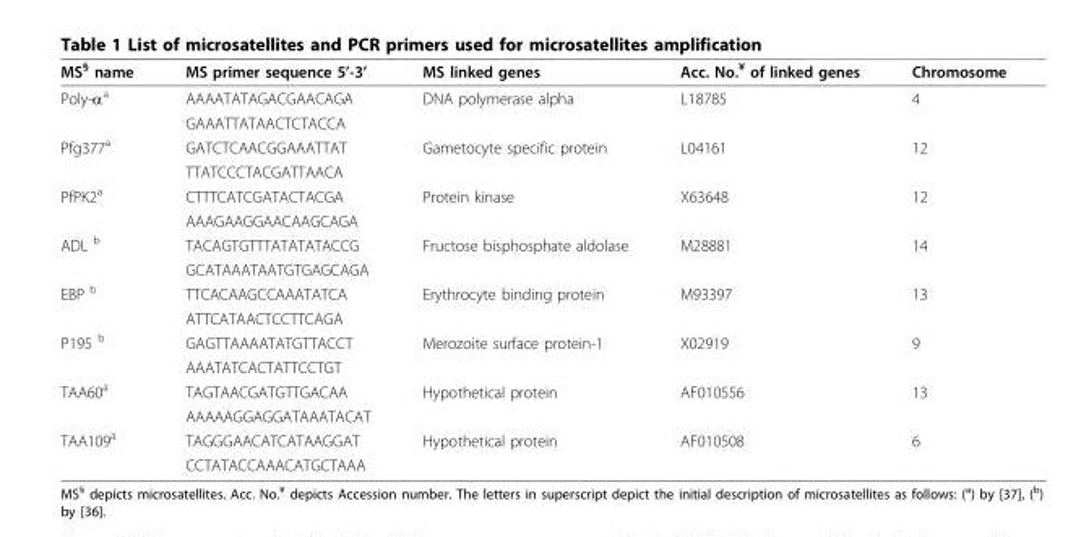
<table><thead><tr><td>MS<sup>§</sup> name</td><td>MS primer sequence 5’-3’</td><td>MS linked genes</td><td>Acc. No.<sup>¥</sup> of linked genes</td><td>Chromosome</td></tr></thead><tbody><tr><td rowspan="2">Poly-α<sup>a</sup></td><td>AAAATATAGACGAACAGA</td><td>DNA polymerase alpha</td><td>L18785</td><td>4</td></tr><tr><td>GAAATTATAACTCTACCA</td><td></td><td></td><td></td></tr><tr><td rowspan="2">Pfg377<sup>a</sup></td><td>GATCTCAACGGAAATTAT</td><td>Gametocyte specific protein</td><td>L04161</td><td>12</td></tr><tr><td>TTATCCCTACGATTAACA</td><td></td><td></td><td></td></tr><tr><td rowspan="2">PfPK2<sup>a</sup></td><td>CTTTCATCGATACTACGA</td><td>Protein kinase</td><td>X63648</td><td>12</td></tr><tr><td>AAAGAAGGAACAAGCAGA</td><td></td><td></td><td></td></tr><tr><td rowspan="2">ADL <sup>b</sup></td><td>TACAGTGTTTATATATACCG</td><td>Fructose bisphosphate aldolase</td><td>M28881</td><td>14</td></tr><tr><td>GCATAAATAATGTGAGCAGA</td><td></td><td></td><td></td></tr><tr><td rowspan="2">EBP <sup>b</sup></td><td>TTCACAAGCCAAATATCA</td><td>Erythrocyte binding protein</td><td>M93397</td><td>13</td></tr><tr><td>ATTCATAACTCCTTCAGA</td><td></td><td></td><td></td></tr><tr><td rowspan="2">P195 <sup>b</sup></td><td>GAGTTAAAATATGTTACCT</td><td>Merozoite surface protein-1</td><td>X02919</td><td>9</td></tr><tr><td>AAATATCACTATTCCTGT</td><td></td><td></td><td></td></tr><tr><td rowspan="2">TAA60<sup>a</sup></td><td>TAGTAACGATGTTGACAA</td><td>Hypothetical protein</td><td>AF010556</td><td>13</td></tr><tr><td>AAAAAGGAGGATAAATACAT</td><td></td><td></td><td></td></tr><tr><td rowspan="2">TAA109<sup>a</sup></td><td>TAGGGAACATCATAAGGAT</td><td>Hypothetical protein</td><td>AF010508</td><td>6</td></tr><tr><td>CCTATACCAAACATGCTAAA</td><td></td><td></td><td></td></tr></tbody></table>